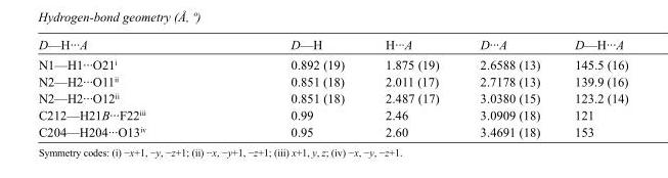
<table><tbody><tr><td>D—H···A</td><td>D—H</td><td>H···A</td><td>D···A</td><td>D—H···A</td></tr><tr><td>N1—H1···O21<sup>i</sup></td><td>0.892 (19)</td><td>1.875 (19)</td><td>2.6588 (13)</td><td>145.5 (16)</td></tr><tr><td>N2—H2···O11<sup>ii</sup></td><td>0.851 (18)</td><td>2.011 (17)</td><td>2.7178 (13)</td><td>139.9 (16)</td></tr><tr><td>N2—H2···O12<sup>ii</sup></td><td>0.851 (18)</td><td>2.487 (17)</td><td>3.0380 (15)</td><td>123.2 (14)</td></tr><tr><td>C212—H21B···F22<sup>iii</sup></td><td>0.99</td><td>2.46</td><td>3.0909 (18)</td><td>121</td></tr><tr><td>C204—H204···O13<sup>iv</sup></td><td>0.95</td><td>2.60</td><td>3.4691 (18)</td><td>153</td></tr></tbody></table>